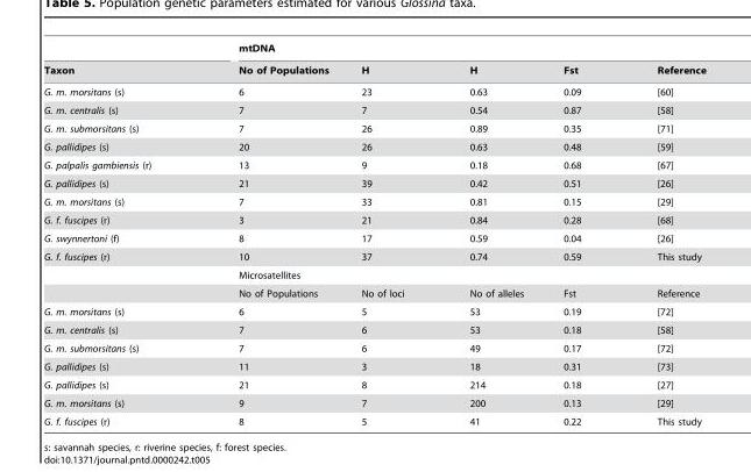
<table><thead><tr><td rowspan="2">Taxon</td><td colspan="5">mtDNA</td></tr><tr><td>No of Populations</td><td>H</td><td>H</td><td>Fst</td><td>Reference</td></tr></thead><tbody><tr><td>G. m. morsitans (s)</td><td>6</td><td>23</td><td>0.63</td><td>0.09</td><td>[60]</td></tr><tr><td>G. m. centralis (s)</td><td>7</td><td>7</td><td>0.54</td><td>0.87</td><td>[58]</td></tr><tr><td>G. m. submorsitans (s)</td><td>7</td><td>26</td><td>0.89</td><td>0.35</td><td>[71]</td></tr><tr><td>G. pallidipes (s)</td><td>20</td><td>26</td><td>0.63</td><td>0.48</td><td>[59]</td></tr><tr><td>G. palpalis gambiensis (r)</td><td>13</td><td>9</td><td>0.18</td><td>0.68</td><td>[67]</td></tr><tr><td>G. pallidipes (s)</td><td>21</td><td>39</td><td>0.42</td><td>0.51</td><td>[26]</td></tr><tr><td>G. m. morsitans (s)</td><td>7</td><td>33</td><td>0.81</td><td>0.15</td><td>[29]</td></tr><tr><td>G. f. fuscipes (r)</td><td>3</td><td>21</td><td>0.84</td><td>0.28</td><td>[68]</td></tr><tr><td>G. swynnertoni (f)</td><td>8</td><td>17</td><td>0.59</td><td>0.04</td><td>[26]</td></tr><tr><td rowspan="3">G. f. fuscipes (r)</td><td>10</td><td>37</td><td>0.74</td><td>0.59</td><td>This study</td></tr><tr><td colspan="5">Microsatellites</td></tr><tr><td>No of Populations</td><td>No of loci</td><td>No of alleles</td><td>Fst</td><td>Reference</td></tr><tr><td>G. m. morsitans (s)</td><td>6</td><td>5</td><td>53</td><td>0.19</td><td>[72]</td></tr><tr><td>G. m. centralis (s)</td><td>7</td><td>6</td><td>53</td><td>0.18</td><td>[58]</td></tr><tr><td>G. m. submorsitans (s)</td><td>7</td><td>6</td><td>49</td><td>0.17</td><td>[72]</td></tr><tr><td>G. pallidipes (s)</td><td>11</td><td>3</td><td>18</td><td>0.31</td><td>[73]</td></tr><tr><td>G. pallidipes (s)</td><td>21</td><td>8</td><td>214</td><td>0.18</td><td>[27]</td></tr><tr><td>G. m. morsitans (s)</td><td>9</td><td>7</td><td>200</td><td>0.13</td><td>[29]</td></tr><tr><td>G. f. fuscipes (r)</td><td>8</td><td>5</td><td>41</td><td>0.22</td><td>This study</td></tr></tbody></table>